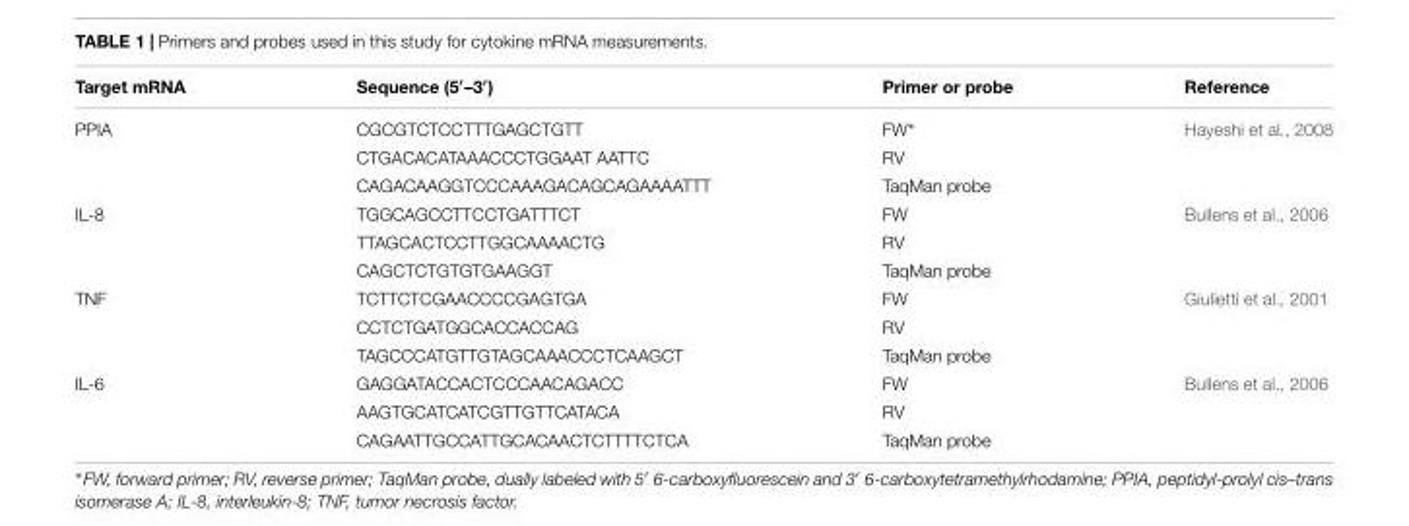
<table><thead><tr><td>Target mRNA</td><td>Sequence (5′–3′)</td><td>Primer or probe</td><td>Reference</td></tr></thead><tbody><tr><td rowspan="3">PPIA</td><td>CGCGTCTCCTTTGAGCTGTT</td><td>FW∗</td><td>Hayeshi et al., 2008</td></tr><tr><td>CTGACACATAAACCCTGGAAT AATTC</td><td>RV</td><td></td></tr><tr><td>CAGACAAGGTCCCAAAGACAGCAGAAAATTT</td><td>TaqMan probe</td><td></td></tr><tr><td rowspan="3">IL-8</td><td>TGGCAGCCTTCCTGATTTCT</td><td>FW</td><td>Bullens et al., 2006</td></tr><tr><td>TTAGCACTCCTTGGCAAAACTG</td><td>RV</td><td></td></tr><tr><td>CAGCTCTGTGTGAAGGT</td><td>TaqMan probe</td><td></td></tr><tr><td rowspan="3">TNF</td><td>TCTTCTCGAACCCCGAGTGA</td><td>FW</td><td>Giulietti et al., 2001</td></tr><tr><td>CCTCTGATGGCACCACCAG</td><td>RV</td><td></td></tr><tr><td>TAGCCCATGTTGTAGCAAACCCTCAAGCT</td><td>TaqMan probe</td><td></td></tr><tr><td rowspan="3">IL-6</td><td>GAGGATACCACTCCCAACAGACC</td><td>FW</td><td>Bullens et al., 2006</td></tr><tr><td>AAGTGCATCATCGTTGTTCATACA</td><td>RV</td><td></td></tr><tr><td>CAGAATTGCCATTGCACAACTCTTTTCTCA</td><td>TaqMan probe</td><td></td></tr></tbody></table>